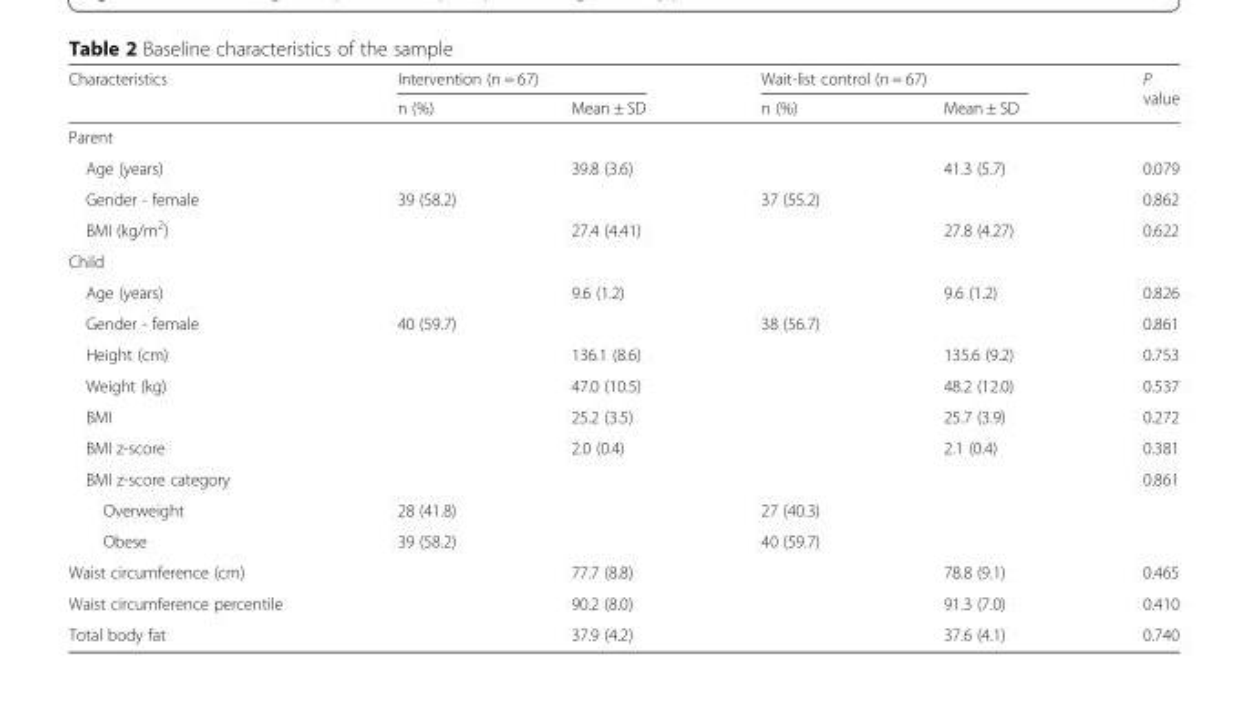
<table><thead><tr><td rowspan="2">Characteristics</td><td colspan="2">Intervention (n = 67)</td><td colspan="2">Wait-list control (n = 67)</td><td rowspan="2">P value</td></tr><tr><td>n (%)</td><td>Mean ± SD</td><td>n (%)</td><td>Mean ± SD</td></tr></thead><tbody><tr><td colspan="6">Parent</td></tr><tr><td>Age (years)</td><td></td><td>39.8 (3.6)</td><td></td><td>41.3 (5.7)</td><td>0.079</td></tr><tr><td>Gender - female</td><td>39 (58.2)</td><td></td><td>37 (55.2)</td><td></td><td>0.862</td></tr><tr><td>BMI (kg/m<sup>2</sup>)</td><td></td><td>27.4 (4.41)</td><td></td><td>27.8 (4.27)</td><td>0.622</td></tr><tr><td colspan="6">Child</td></tr><tr><td>Age (years)</td><td></td><td>9.6 (1.2)</td><td></td><td>9.6 (1.2)</td><td>0.826</td></tr><tr><td>Gender - female</td><td>40 (59.7)</td><td></td><td>38 (56.7)</td><td></td><td>0.861</td></tr><tr><td>Height (cm)</td><td></td><td>136.1 (8.6)</td><td></td><td>135.6 (9.2)</td><td>0.753</td></tr><tr><td>Weight (kg)</td><td></td><td>47.0 (10.5)</td><td></td><td>48.2 (12.0)</td><td>0.537</td></tr><tr><td>BMI</td><td></td><td>25.2 (3.5)</td><td></td><td>25.7 (3.9)</td><td>0.272</td></tr><tr><td>BMI z-score</td><td></td><td>2.0 (0.4)</td><td></td><td>2.1 (0.4)</td><td>0.381</td></tr><tr><td>BMI z-score category</td><td></td><td></td><td></td><td></td><td>0.861</td></tr><tr><td>Overweight</td><td>28 (41.8)</td><td></td><td>27 (40.3)</td><td></td><td></td></tr><tr><td>Obese</td><td>39 (58.2)</td><td></td><td>40 (59.7)</td><td></td><td></td></tr><tr><td>Waist circumference (cm)</td><td></td><td>77.7 (8.8)</td><td></td><td>78.8 (9.1)</td><td>0.465</td></tr><tr><td>Waist circumference percentile</td><td></td><td>90.2 (8.0)</td><td></td><td>91.3 (7.0)</td><td>0.410</td></tr><tr><td>Total body fat</td><td></td><td>37.9 (4.2)</td><td></td><td>37.6 (4.1)</td><td>0.740</td></tr></tbody></table>